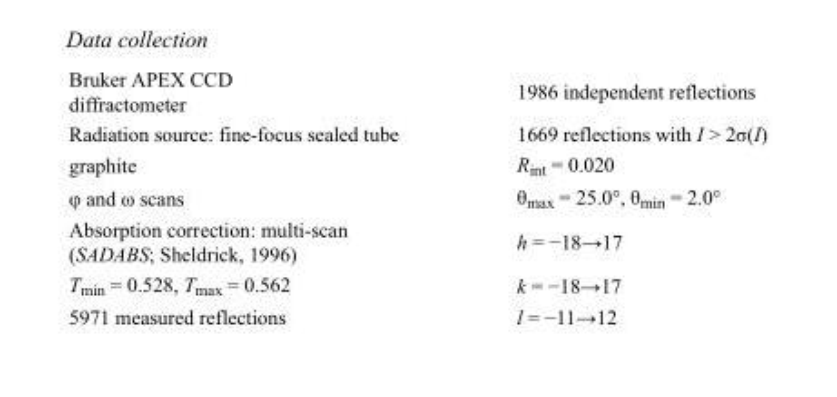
<table><tbody><tr><td>Bruker APEX CCD diffractometer</td><td>1986 independent reflections</td></tr><tr><td>Radiation source: fine-focus sealed tube</td><td>1669 reflections with I &gt; 2σ(I)</td></tr><tr><td>graphite</td><td>R<sub>int</sub> = 0.020</td></tr><tr><td>φ and ω scans</td><td>θ<sub>max</sub> = 25.0°, θ<sub>min</sub> = 2.0°</td></tr><tr><td>Absorption correction: multi-scan (SADABS; Sheldrick, 1996)</td><td>h = −18→17</td></tr><tr><td>T<sub>min</sub> = 0.528, T<sub>max</sub> = 0.562</td><td>k = −18→17</td></tr><tr><td>5971 measured reflections</td><td>l = −11→12</td></tr></tbody></table>